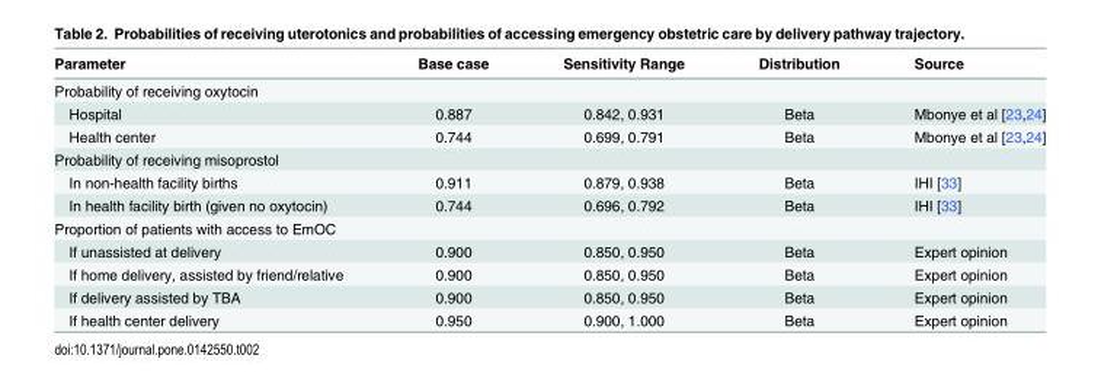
<table><thead><tr><td>Parameter</td><td>Base case</td><td>Sensitivity Range</td><td>Distribution</td><td>Source</td></tr></thead><tbody><tr><td colspan="5">Probability of receiving oxytocin</td></tr><tr><td>Hospital</td><td>0.887</td><td>0.842, 0.931</td><td>Beta</td><td>Mbonye et al [23,24]</td></tr><tr><td>Health center</td><td>0.744</td><td>0.699, 0.791</td><td>Beta</td><td>Mbonye et al [23,24]</td></tr><tr><td colspan="5">Probability of receiving misoprostol</td></tr><tr><td>In non-health facility births</td><td>0.911</td><td>0.879, 0.938</td><td>Beta</td><td>IHI [33]</td></tr><tr><td>In health facility birth (given no oxytocin)</td><td>0.744</td><td>0.696, 0.792</td><td>Beta</td><td>IHI [33]</td></tr><tr><td colspan="5">Proportion of patients with access to EmOC</td></tr><tr><td>If unassisted at delivery</td><td>0.900</td><td>0.850, 0.950</td><td>Beta</td><td>Expert opinion</td></tr><tr><td>If home delivery, assisted by friend/relative</td><td>0.900</td><td>0.850, 0.950</td><td>Beta</td><td>Expert opinion</td></tr><tr><td>If delivery assisted by TBA</td><td>0.900</td><td>0.850, 0.950</td><td>Beta</td><td>Expert opinion</td></tr><tr><td>If health center delivery</td><td>0.950</td><td>0.900, 1.000</td><td>Beta</td><td>Expert opinion</td></tr></tbody></table>